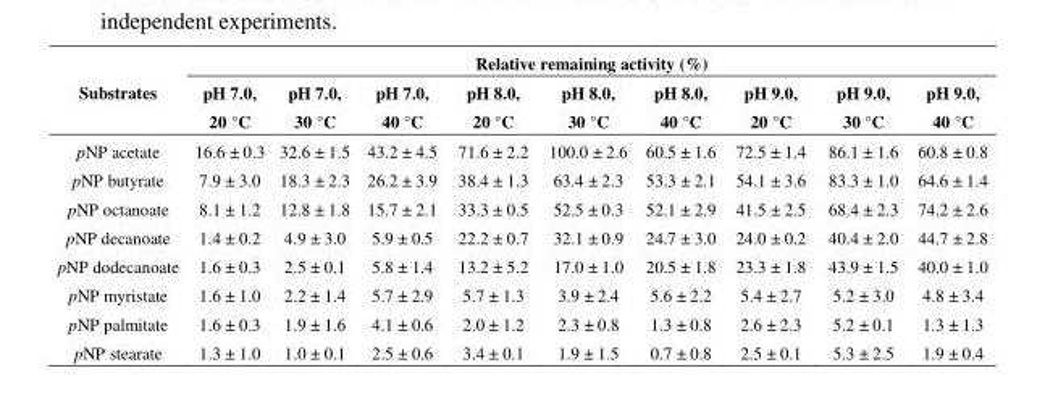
<table><thead><tr><td rowspan="2">Substrates</td><td colspan="9">Relative remaining activity (%)</td></tr><tr><td>pH 7.0, 20 °C</td><td>pH 7.0, 30 °C</td><td>pH 7.0, 40 °C</td><td>pH 8.0, 20 °C</td><td>pH 8.0, 30 °C</td><td>pH 8.0, 40 °C</td><td>pH 9.0, 20 °C</td><td>pH 9.0, 30 °C</td><td>pH 9.0, 40 °C</td></tr></thead><tbody><tr><td>pNP acetate</td><td>16.6 ± 0.3</td><td>32.6 ± 1.5</td><td>43.2 ± 4.5</td><td>71.6 ± 2.2</td><td>100.0 ± 2.6</td><td>60.5 ± 1.6</td><td>72.5 ± 1.4</td><td>86.1 ± 1.6</td><td>60.8 ± 0.8</td></tr><tr><td>pNP butyrate</td><td>7.9 ± 3.0</td><td>18.3 ± 2.3</td><td>26.2 ± 3.9</td><td>38.4 ± 1.3</td><td>63.4 ± 2.3</td><td>53.3 ± 2.1</td><td>54.1 ± 3.6</td><td>83.3 ± 1.0</td><td>64.6 ± 1.4</td></tr><tr><td>pNP octanoate</td><td>8.1 ± 1.2</td><td>12.8 ± 1.8</td><td>15.7 ± 2.1</td><td>33.3 ± 0.5</td><td>52.5 ± 0.3</td><td>52.1 ± 2.9</td><td>41.5 ± 2.5</td><td>68.4 ± 2.3</td><td>74.2 ± 2.6</td></tr><tr><td>pNP decanoate</td><td>1.4 ± 0.2</td><td>4.9 ± 3.0</td><td>5.9 ± 0.5</td><td>22.2 ± 0.7</td><td>32.1 ± 0.9</td><td>24.7 ± 3.0</td><td>24.0 ± 0.2</td><td>40.4 ± 2.0</td><td>44.7 ± 2.8</td></tr><tr><td>pNP dodecanoate</td><td>1.6 ± 0.3</td><td>2.5 ± 0.1</td><td>5.8 ± 1.4</td><td>13.2 ± 5.2</td><td>17.0 ± 1.0</td><td>20.5 ± 1.8</td><td>23.3 ± 1.8</td><td>43.9 ± 1.5</td><td>40.0 ± 1.0</td></tr><tr><td>pNP myristate</td><td>1.6 ± 1.0</td><td>2.2 ± 1.4</td><td>5.7 ± 2.9</td><td>5.7 ± 1.3</td><td>3.9 ± 2.4</td><td>5.6 ± 2.2</td><td>5.4 ± 2.7</td><td>5.2 ± 3.0</td><td>4.8 ± 3.4</td></tr><tr><td>pNP palmitate</td><td>1.6 ± 0.3</td><td>1.9 ± 1.6</td><td>4.1 ± 0.6</td><td>2.0 ± 1.2</td><td>2.3 ± 0.8</td><td>1.3 ± 0.8</td><td>2.6 ± 2.3</td><td>5.2 ± 0.1</td><td>1.3 ± 1.3</td></tr><tr><td>pNP stearate</td><td>1.3 ± 1.0</td><td>1.0 ± 0.1</td><td>2.5 ± 0.6</td><td>3.4 ± 0.1</td><td>1.9 ± 1.5</td><td>0.7 ± 0.8</td><td>2.5 ± 0.1</td><td>5.3 ± 2.5</td><td>1.9 ± 0.4</td></tr></tbody></table>